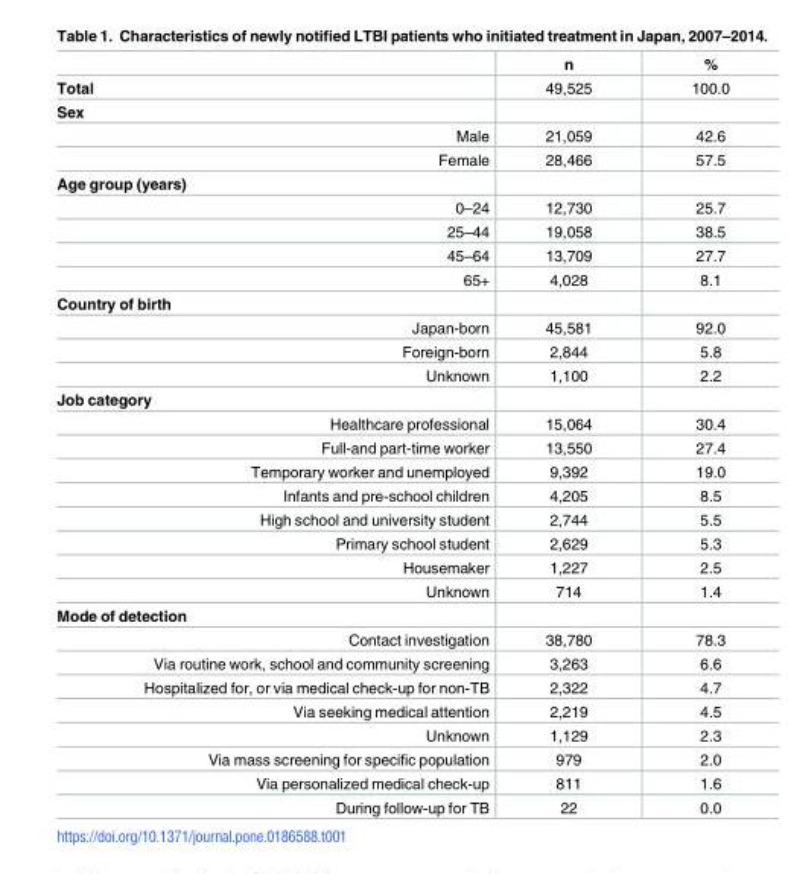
<table><thead><tr><td></td><td>n</td><td>%</td></tr></thead><tbody><tr><td>Total</td><td>49,525</td><td>100.0</td></tr><tr><td colspan="3">Sex</td></tr><tr><td>Male</td><td>21,059</td><td>42.6</td></tr><tr><td>Female</td><td>28,466</td><td>57.5</td></tr><tr><td colspan="3">Age group (years)</td></tr><tr><td>0–24</td><td>12,730</td><td>25.7</td></tr><tr><td>25–44</td><td>19,058</td><td>38.5</td></tr><tr><td>45–64</td><td>13,709</td><td>27.7</td></tr><tr><td>65+</td><td>4,028</td><td>8.1</td></tr><tr><td colspan="3">Country of birth</td></tr><tr><td>Japan-born</td><td>45,581</td><td>92.0</td></tr><tr><td>Foreign-born</td><td>2,844</td><td>5.8</td></tr><tr><td>Unknown</td><td>1,100</td><td>2.2</td></tr><tr><td colspan="3">Job category</td></tr><tr><td>Healthcare professional</td><td>15,064</td><td>30.4</td></tr><tr><td>Full-and part-time worker</td><td>13,550</td><td>27.4</td></tr><tr><td>Temporary worker and unemployed</td><td>9,392</td><td>19.0</td></tr><tr><td>Infants and pre-school children</td><td>4,205</td><td>8.5</td></tr><tr><td>High school and university student</td><td>2,744</td><td>5.5</td></tr><tr><td>Primary school student</td><td>2,629</td><td>5.3</td></tr><tr><td>Housemaker</td><td>1,227</td><td>2.5</td></tr><tr><td>Unknown</td><td>714</td><td>1.4</td></tr><tr><td colspan="3">Mode of detection</td></tr><tr><td>Contact investigation</td><td>38,780</td><td>78.3</td></tr><tr><td>Via routine work, school and community screening</td><td>3,263</td><td>6.6</td></tr><tr><td>Hospitalized for, or via medical check-up for non-TB</td><td>2,322</td><td>4.7</td></tr><tr><td>Via seeking medical attention</td><td>2,219</td><td>4.5</td></tr><tr><td>Unknown</td><td>1,129</td><td>2.3</td></tr><tr><td>Via mass screening for specific population</td><td>979</td><td>2.0</td></tr><tr><td>Via personalized medical check-up</td><td>811</td><td>1.6</td></tr><tr><td>During follow-up for TB</td><td>22</td><td>0.0</td></tr></tbody></table>